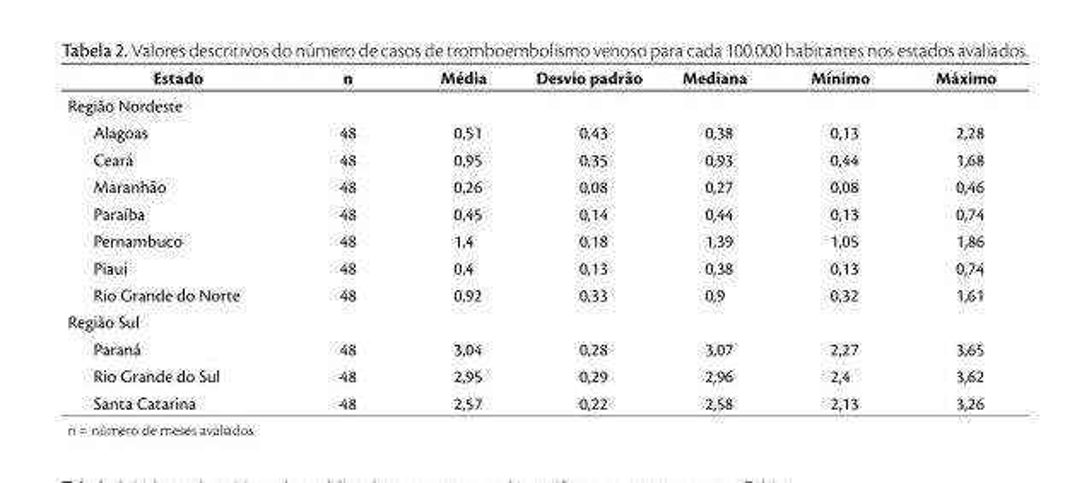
<table><thead><tr><td>Estado</td><td>n</td><td>Média</td><td>Desvio padrão</td><td>Mediana</td><td>Mínimo</td><td>Máximo</td></tr></thead><tbody><tr><td colspan="7">Região Nordeste</td></tr><tr><td>Alagoas</td><td>48</td><td>0,51</td><td>0,43</td><td>0,38</td><td>0,13</td><td>2,28</td></tr><tr><td>Ceará</td><td>48</td><td>0,95</td><td>0,35</td><td>0,93</td><td>0,44</td><td>1,68</td></tr><tr><td>Maranhão</td><td>48</td><td>0,26</td><td>0,08</td><td>0,27</td><td>0,08</td><td>0,46</td></tr><tr><td>Paraíba</td><td>48</td><td>0,45</td><td>0,14</td><td>0,44</td><td>0,13</td><td>0,74</td></tr><tr><td>Pernambuco</td><td>48</td><td>1,4</td><td>0,18</td><td>1,39</td><td>1,05</td><td>1,86</td></tr><tr><td>Piauí</td><td>48</td><td>0,4</td><td>0,13</td><td>0,38</td><td>0,13</td><td>0,74</td></tr><tr><td>Rio Grande do Norte</td><td>48</td><td>0,92</td><td>0,33</td><td>0,9</td><td>0,32</td><td>1,61</td></tr><tr><td colspan="7">Região Sul</td></tr><tr><td>Paraná</td><td>48</td><td>3,04</td><td>0,28</td><td>3,07</td><td>2,27</td><td>3,65</td></tr><tr><td>Rio Grande do Sul</td><td>48</td><td>2,95</td><td>0,29</td><td>2,96</td><td>2,4</td><td>3,62</td></tr><tr><td>Santa Catarina</td><td>48</td><td>2,57</td><td>0,22</td><td>2,58</td><td>2,13</td><td>3,26</td></tr></tbody></table>